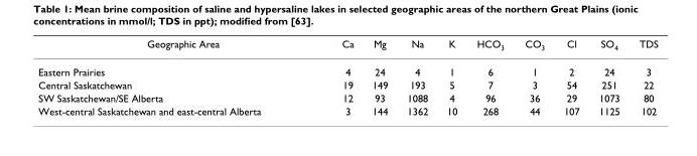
<table><thead><tr><td>Geographic Area</td><td>Ca</td><td>Mg</td><td>Na</td><td>K</td><td>HCO<sub>3</sub></td><td>CO<sub>3</sub></td><td>Cl</td><td>SO<sub>4</sub></td><td>TDS</td></tr></thead><tbody><tr><td>Eastern Prairies</td><td>4</td><td>24</td><td>4</td><td>1</td><td>6</td><td>1</td><td>2</td><td>24</td><td>3</td></tr><tr><td>Central Saskatchewan</td><td>19</td><td>149</td><td>193</td><td>5</td><td>7</td><td>3</td><td>54</td><td>251</td><td>22</td></tr><tr><td>SW Saskatchewan/SE Alberta</td><td>12</td><td>93</td><td>1088</td><td>4</td><td>96</td><td>36</td><td>29</td><td>1073</td><td>80</td></tr><tr><td>West-central Saskatchewan and east-central Alberta</td><td>3</td><td>144</td><td>1362</td><td>10</td><td>268</td><td>44</td><td>107</td><td>1125</td><td>102</td></tr></tbody></table>